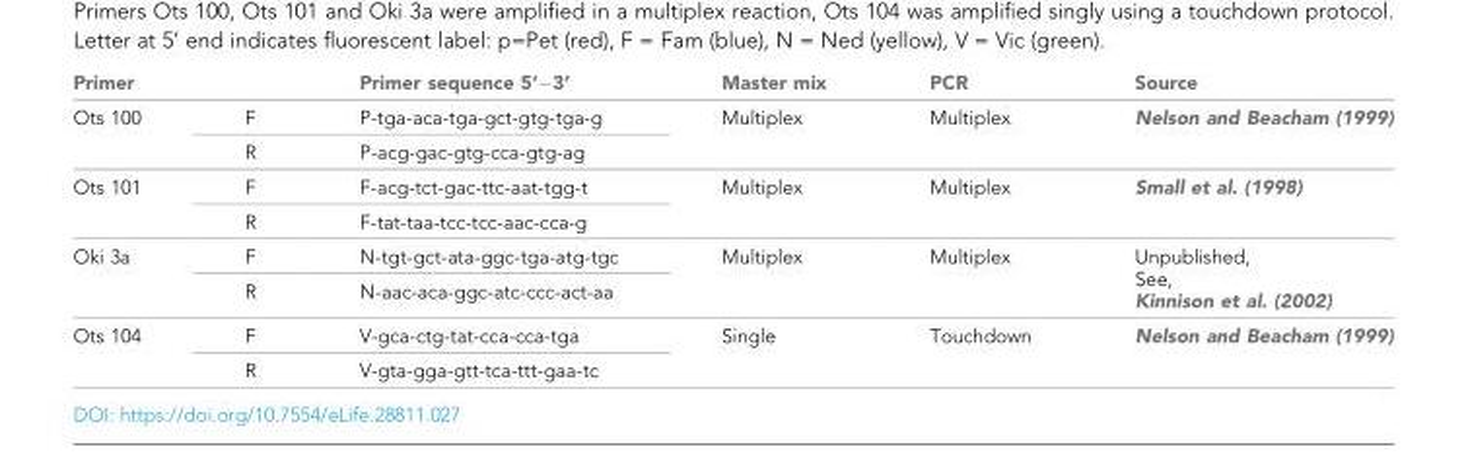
<table><thead><tr><td>Primer</td><td></td><td>Primer sequence 5’−3’</td><td>Master mix</td><td>PCR</td><td>Source</td></tr></thead><tbody><tr><td rowspan="2">Ots 100</td><td>F</td><td>P-tga-aca-tga-gct-gtg-tga-g</td><td rowspan="2">Multiplex</td><td rowspan="2">Multiplex</td><td rowspan="2">Nelson and Beacham (1999)</td></tr><tr><td>R</td><td>P-acg-gac-gtg-cca-gtg-ag</td></tr><tr><td rowspan="2">Ots 101</td><td>F</td><td>F-acg-tct-gac-ttc-aat-tgg-t</td><td rowspan="2">Multiplex</td><td rowspan="2">Multiplex</td><td rowspan="2">Small et al. (1998)</td></tr><tr><td>R</td><td>F-tat-taa-tcc-tcc-aac-cca-g</td></tr><tr><td rowspan="2">Oki 3a</td><td>F</td><td>N-tgt-gct-ata-ggc-tga-atg-tgc</td><td rowspan="2">Multiplex</td><td rowspan="2">Multiplex</td><td rowspan="2">Unpublished, See, Kinnison et al. (2002)</td></tr><tr><td>R</td><td>N-aac-aca-ggc-atc-ccc-act-aa</td></tr><tr><td rowspan="2">Ots 104</td><td>F</td><td>V-gca-ctg-tat-cca-cca-tga</td><td rowspan="2">Single</td><td rowspan="2">Touchdown</td><td rowspan="2">Nelson and Beacham (1999)</td></tr><tr><td>R</td><td>V-gta-gga-gtt-tca-ttt-gaa-tc</td></tr></tbody></table>